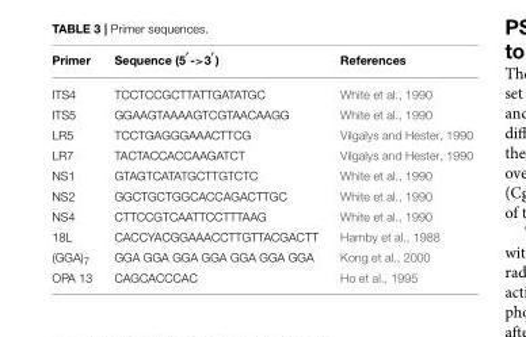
<table><thead><tr><td>Primer</td><td>Sequence (5 ′ -&gt;3 ′ )</td><td>References</td></tr></thead><tbody><tr><td>ITS4</td><td>TCCTCCGCTTATTGATATGC</td><td>White et al., 1990</td></tr><tr><td>ITS5</td><td>GGAAGTAAAAGTCGTAACAAGG</td><td>White et al., 1990</td></tr><tr><td>LR5</td><td>TCCTGAGGGAAACTTCG</td><td>Vilgalys and Hester, 1990</td></tr><tr><td>LR7</td><td>TACTACCACCAAGATCT</td><td>Vilgalys and Hester, 1990</td></tr><tr><td>NS1</td><td>GTAGTCATATGCTTGTCTC</td><td>White et al., 1990</td></tr><tr><td>NS2</td><td>GGCTGCTGGCACCAGACTTGC</td><td>White et al., 1990</td></tr><tr><td>NS4</td><td>CTTCCGTCAATTCCTTTAAG</td><td>White et al., 1990</td></tr><tr><td>18L</td><td>CACCYACGGAAACCTTGTTACGACTT</td><td>Hamby et al., 1988</td></tr><tr><td>(GGA)<sub>7</sub></td><td>GGA GGA GGA GGA GGA GGA GGA</td><td>Kong et al., 2000</td></tr><tr><td>OPA 13</td><td>CAGCACCCAC</td><td>Ho et al., 1995</td></tr></tbody></table>